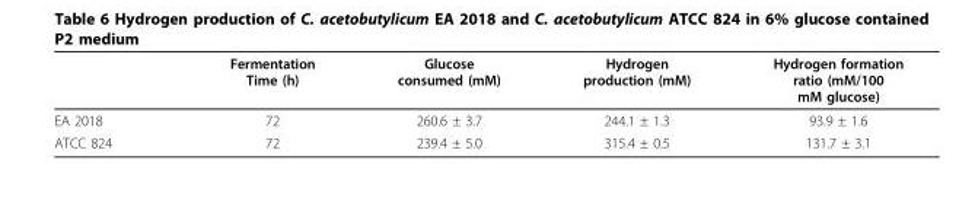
<table><thead><tr><td></td><td>Fermentation Time (h)</td><td>Glucose consumed (mM)</td><td>Hydrogen production (mM)</td><td>Hydrogen formation ratio (mM/100 mM glucose)</td></tr></thead><tbody><tr><td>EA 2018</td><td>72</td><td>260.6 ± 3.7</td><td>244.1 ± 1.3</td><td>93.9 ± 1.6</td></tr><tr><td>ATCC 824</td><td>72</td><td>239.4 ± 5.0</td><td>315.4 ± 0.5</td><td>131.7 ± 3.1</td></tr></tbody></table>